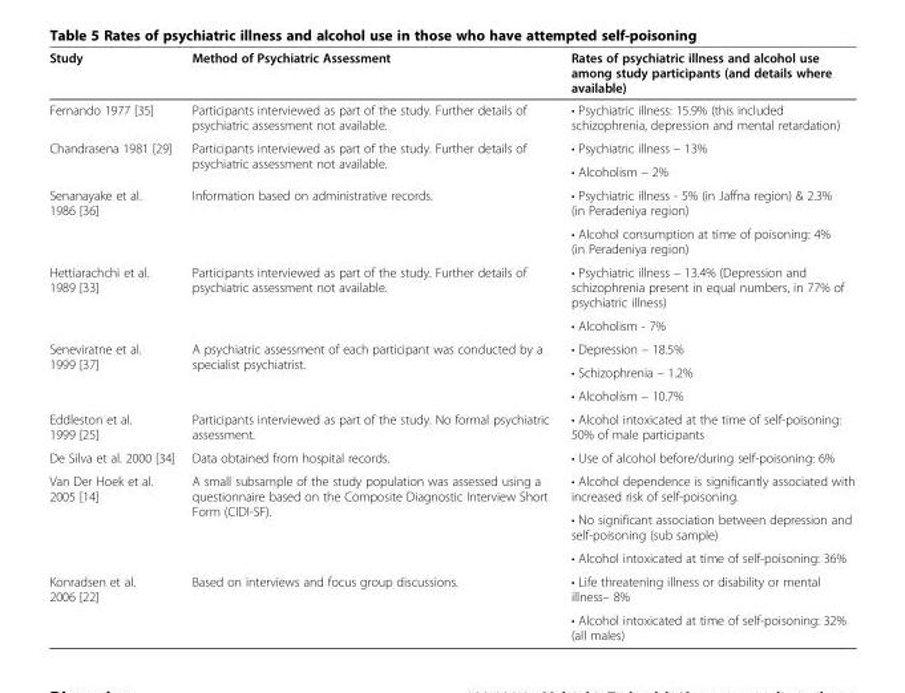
<table><thead><tr><td>Study</td><td>Method of Psychiatric Assessment</td><td>Rates of psychiatric illness and alcohol use among study participants (and details where available)</td></tr></thead><tbody><tr><td>Fernando 1977 [35]</td><td>Participants interviewed as part of the study. Further details of psychiatric assessment not available.</td><td>• Psychiatric illness: 15.9% (this included schizophrenia, depression and mental retardation)</td></tr><tr><td rowspan="2">Chandrasena 1981 [29]</td><td rowspan="2">Participants interviewed as part of the study. Further details of psychiatric assessment not available.</td><td>• Psychiatric illness – 13%</td></tr><tr><td>• Alcoholism – 2%</td></tr><tr><td rowspan="2">Senanayake et al. 1986 [36]</td><td rowspan="2">Information based on administrative records.</td><td>• Psychiatric illness - 5% (in Jaffna region) &amp; 2.3% (in Peradeniya region)</td></tr><tr><td>• Alcohol consumption at time of poisoning: 4% (in Peradeniya region)</td></tr><tr><td rowspan="2">Hettiarachchi et al. 1989 [33]</td><td rowspan="2">Participants interviewed as part of the study. Further details of psychiatric assessment not available.</td><td>• Psychiatric illness – 13.4% (Depression and schizophrenia present in equal numbers, in 77% of psychiatric illness)</td></tr><tr><td>• Alcoholism - 7%</td></tr><tr><td rowspan="3">Seneviratne et al. 1999 [37]</td><td rowspan="3">A psychiatric assessment of each participant was conducted by a specialist psychiatrist.</td><td>• Depression – 18.5%</td></tr><tr><td>• Schizophrenia – 1.2%</td></tr><tr><td>• Alcoholism – 10.7%</td></tr><tr><td>Eddleston et al. 1999 [25]</td><td>Participants interviewed as part of the study. No formal psychiatric assessment.</td><td>• Alcohol intoxicated at the time of self-poisoning: 50% of male participants</td></tr><tr><td>De Silva et al. 2000 [34]</td><td>Data obtained from hospital records.</td><td>• Use of alcohol before/during self-poisoning: 6%</td></tr><tr><td rowspan="3">Van Der Hoek et al. 2005 [14]</td><td rowspan="3">A small subsample of the study population was assessed using a questionnaire based on the Composite Diagnostic Interview Short Form (CIDI-SF).</td><td>• Alcohol dependence is significantly associated with increased risk of self-poisoning.</td></tr><tr><td>• No significant association between depression and self-poisoning (sub sample)</td></tr><tr><td>• Alcohol intoxicated at time of self-poisoning: 36%</td></tr><tr><td rowspan="2">Konradsen et al. 2006 [22]</td><td rowspan="2">Based on interviews and focus group discussions.</td><td>• Life threatening illness or disability or mental illness– 8%</td></tr><tr><td>• Alcohol intoxicated at time of self-poisoning: 32% (all males)</td></tr></tbody></table>